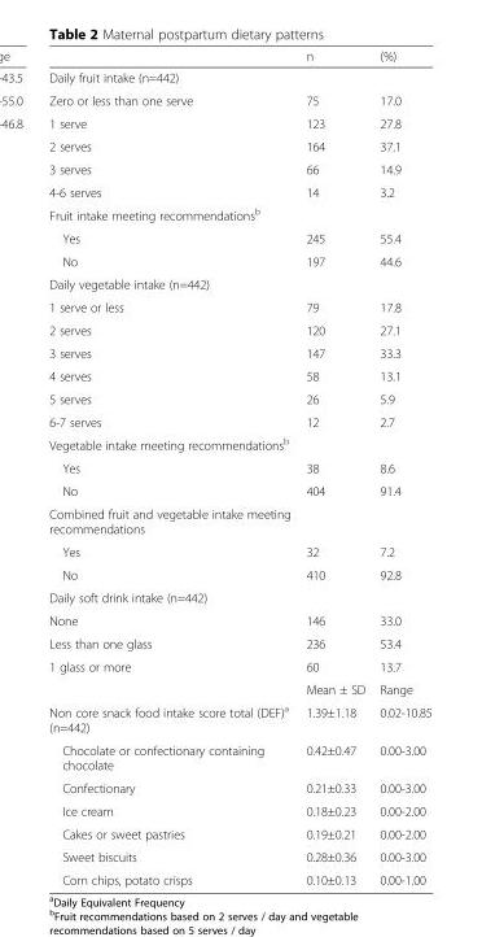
<table><thead><tr><td></td><td>n</td><td>(%)</td></tr></thead><tbody><tr><td colspan="3">Daily fruit intake (n=442)</td></tr><tr><td>Zero or less than one serve</td><td>75</td><td>17.0</td></tr><tr><td>1 serve</td><td>123</td><td>27.8</td></tr><tr><td>2 serves</td><td>164</td><td>37.1</td></tr><tr><td>3 serves</td><td>66</td><td>14.9</td></tr><tr><td>4-6 serves</td><td>14</td><td>3.2</td></tr><tr><td colspan="3">Fruit intake meeting recommendations<sup>b</sup></td></tr><tr><td>Yes</td><td>245</td><td>55.4</td></tr><tr><td>No</td><td>197</td><td>44.6</td></tr><tr><td colspan="3">Daily vegetable intake (n=442)</td></tr><tr><td>1 serve or less</td><td>79</td><td>17.8</td></tr><tr><td>2 serves</td><td>120</td><td>27.1</td></tr><tr><td>3 serves</td><td>147</td><td>33.3</td></tr><tr><td>4 serves</td><td>58</td><td>13.1</td></tr><tr><td>5 serves</td><td>26</td><td>5.9</td></tr><tr><td>6-7 serves</td><td>12</td><td>2.7</td></tr><tr><td colspan="3">Vegetable intake meeting recommendations<sup>b</sup></td></tr><tr><td>Yes</td><td>38</td><td>8.6</td></tr><tr><td>No</td><td>404</td><td>91.4</td></tr><tr><td colspan="3">Combined fruit and vegetable intake meeting recommendations</td></tr><tr><td>Yes</td><td>32</td><td>7.2</td></tr><tr><td>No</td><td>410</td><td>92.8</td></tr><tr><td colspan="3">Daily soft drink intake (n=442)</td></tr><tr><td>None</td><td>146</td><td>33.0</td></tr><tr><td>Less than one glass</td><td>236</td><td>53.4</td></tr><tr><td rowspan="2">1 glass or more</td><td>60</td><td>13.7</td></tr><tr><td>Mean ± SD</td><td>Range</td></tr><tr><td>Non core snack food intake score total (DEF)<sup>a</sup> (n=442)</td><td>1.39±1.18</td><td>0.02-10.85</td></tr><tr><td>Chocolate or confectionary containing chocolate</td><td>0.42±0.47</td><td>0.00-3.00</td></tr><tr><td>Confectionary</td><td>0.21±0.33</td><td>0.00-3.00</td></tr><tr><td>Ice cream</td><td>0.18±0.23</td><td>0.00-2.00</td></tr><tr><td>Cakes or sweet pastries</td><td>0.19±0.21</td><td>0.00-2.00</td></tr><tr><td>Sweet biscuits</td><td>0.28±0.36</td><td>0.00-3.00</td></tr><tr><td>Corn chips, potato crisps</td><td>0.10±0.13</td><td>0.00-1.00</td></tr></tbody></table>